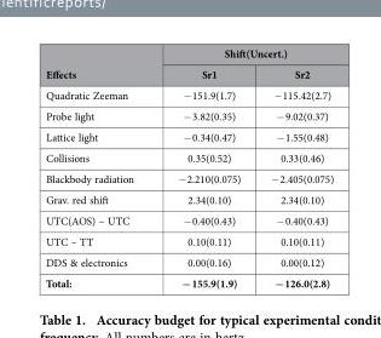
<table><thead><tr><td rowspan="2">Effects</td><td colspan="2">Shift(Uncert.)</td></tr><tr><td>Sr1</td><td>Sr2</td></tr></thead><tbody><tr><td>Quadratic Zeeman</td><td>− 151.9(1.7)</td><td>− 115.42(2.7)</td></tr><tr><td>Probe light</td><td>− 3.82(0.35)</td><td>− 9.02(0.37)</td></tr><tr><td>Lattice light</td><td>− 0.34(0.47)</td><td>− 1.55(0.48)</td></tr><tr><td>Collisions</td><td>0.35(0.52)</td><td>0.33(0.46)</td></tr><tr><td>Blackbody radiation</td><td>− 2.210(0.075)</td><td>− 2.405(0.075)</td></tr><tr><td>Grav. red shift</td><td>2.34(0.10)</td><td>2.34(0.10)</td></tr><tr><td>UTC(AOS) – UTC</td><td>− 0.40(0.43)</td><td>− 0.40(0.43)</td></tr><tr><td>UTC – TT</td><td>0.10(0.11)</td><td>0.10(0.11)</td></tr><tr><td>DDS &amp; electronics</td><td>0.00(0.16)</td><td>0.00(0.12)</td></tr><tr><td>Total:</td><td>− 155.9(1.9)</td><td>− 126.0(2.8)</td></tr></tbody></table>